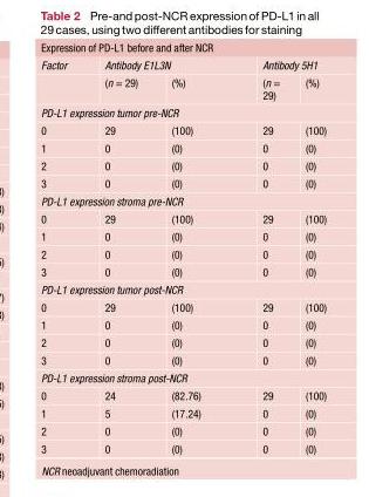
<table><thead><tr><td colspan="5">Expression of PD-L1 before and after NCR</td></tr><tr><td rowspan="2">Factor</td><td colspan="2">Antibody E1L3N</td><td colspan="2">Antibody 5H1</td></tr><tr><td>(n = 29)</td><td>(%)</td><td>(n = 29)</td><td>(%)</td></tr></thead><tbody><tr><td colspan="5">PD-L1 expression tumor pre-NCR</td></tr><tr><td>0</td><td>29</td><td>(100)</td><td>29</td><td>(100)</td></tr><tr><td>1</td><td>0</td><td>(0)</td><td>0</td><td>(0)</td></tr><tr><td>2</td><td>0</td><td>(0)</td><td>0</td><td>(0)</td></tr><tr><td>3</td><td>0</td><td>(0)</td><td>0</td><td>(0)</td></tr><tr><td colspan="5">PD-L1 expression stroma pre-NCR</td></tr><tr><td>0</td><td>29</td><td>(100)</td><td>29</td><td>(100)</td></tr><tr><td>1</td><td>0</td><td>(0)</td><td>0</td><td>(0)</td></tr><tr><td>2</td><td>0</td><td>(0)</td><td>0</td><td>(0)</td></tr><tr><td>3</td><td>0</td><td>(0)</td><td>0</td><td>(0)</td></tr><tr><td colspan="5">PD-L1 expression tumor post-NCR</td></tr><tr><td>0</td><td>29</td><td>(100)</td><td>29</td><td>(100)</td></tr><tr><td>1</td><td>0</td><td>(0)</td><td>0</td><td>(0)</td></tr><tr><td>2</td><td>0</td><td>(0)</td><td>0</td><td>(0)</td></tr><tr><td>3</td><td>0</td><td>(0)</td><td>0</td><td>(0)</td></tr><tr><td colspan="5">PD-L1 expression stroma post-NCR</td></tr><tr><td>0</td><td>24</td><td>(82.76)</td><td>29</td><td>(100)</td></tr><tr><td>1</td><td>5</td><td>(17.24)</td><td>0</td><td>(0)</td></tr><tr><td>2</td><td>0</td><td>(0)</td><td>0</td><td>(0)</td></tr><tr><td>3</td><td>0</td><td>(0)</td><td>0</td><td>(0)</td></tr></tbody></table>